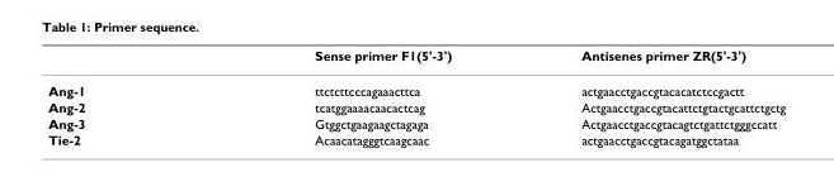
<table><thead><tr><td></td><td>Sense primer F1(5&#x27;-3&#x27;)</td><td>Antisenes primer ZR(5&#x27;-3&#x27;)</td></tr></thead><tbody><tr><td>Ang-1</td><td>ttctcttcccagaaacttca</td><td>actgaacctgaccgtacacatctccgactt</td></tr><tr><td>Ang-2</td><td>tcatggaaaacaacactcag</td><td>Actgaacctgaccgtacattctgtactgcattctgctg</td></tr><tr><td>Ang-3</td><td>Gtggctgaagaagctagaga</td><td>Actgaacctgaccgtacagtctgattctgggccatt</td></tr><tr><td>Tie-2</td><td>Acaacatagggtcaagcaac</td><td>actgaacctgaccgtacagatggctataa</td></tr></tbody></table>